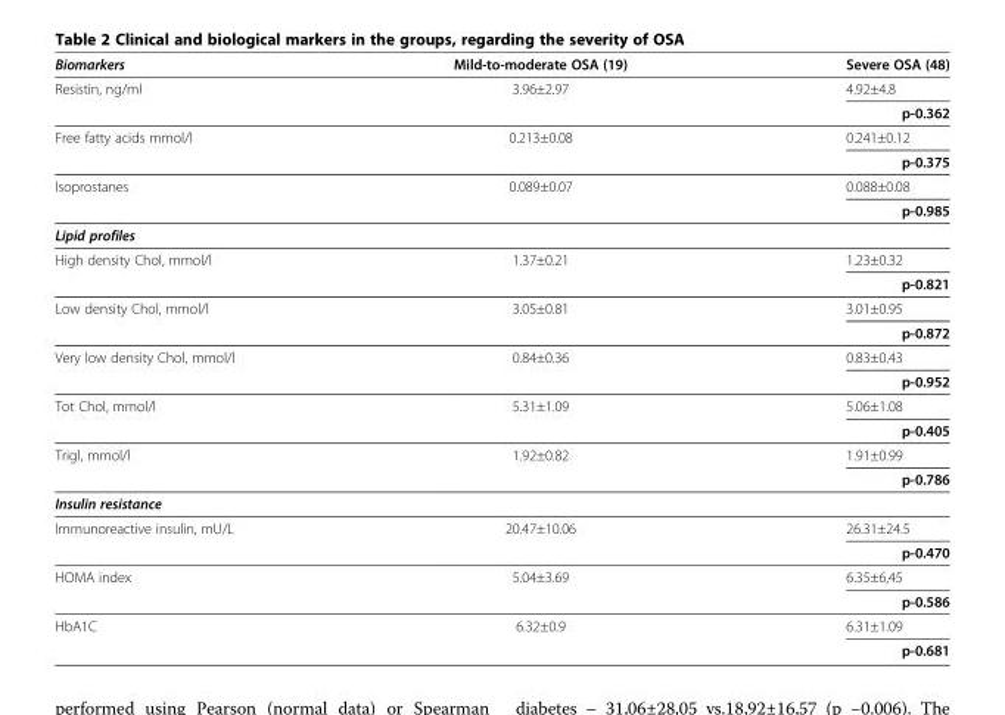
<table><thead><tr><td>Biomarkers</td><td>Mild-to-moderate OSA (19)</td><td>Severe OSA (48)</td></tr></thead><tbody><tr><td rowspan="2">Resistin, ng/ml</td><td rowspan="2">3.96±2.97</td><td>4.92±4.8</td></tr><tr><td>p-0.362</td></tr><tr><td rowspan="2">Free fatty acids mmol/l</td><td rowspan="2">0.213±0.08</td><td>0.241±0.12</td></tr><tr><td>p-0.375</td></tr><tr><td rowspan="2">Isoprostanes</td><td rowspan="2">0.089±0.07</td><td>0.088±0.08</td></tr><tr><td>p-0.985</td></tr><tr><td colspan="3">Lipid profiles</td></tr><tr><td rowspan="2">High density Chol, mmol/l</td><td rowspan="2">1.37±0.21</td><td>1.23±0.32</td></tr><tr><td>p-0.821</td></tr><tr><td rowspan="2">Low density Chol, mmol/l</td><td rowspan="2">3.05±0.81</td><td>3.01±0.95</td></tr><tr><td>p-0.872</td></tr><tr><td rowspan="2">Very low density Chol, mmol/l</td><td rowspan="2">0.84±0.36</td><td>0.83±0.43</td></tr><tr><td>p-0.952</td></tr><tr><td rowspan="2">Tot Chol, mmol/l</td><td rowspan="2">5.31±1.09</td><td>5.06±1.08</td></tr><tr><td>p-0.405</td></tr><tr><td rowspan="2">Trigl, mmol/l</td><td rowspan="2">1.92±0.82</td><td>1.91±0.99</td></tr><tr><td>p-0.786</td></tr><tr><td colspan="3">Insulin resistance</td></tr><tr><td rowspan="2">Immunoreactive insulin, mU/L</td><td rowspan="2">20.47±10.06</td><td>26.31±24.5</td></tr><tr><td>p-0.470</td></tr><tr><td rowspan="2">HOMA index</td><td rowspan="2">5.04±3.69</td><td>6.35±6,45</td></tr><tr><td>p-0.586</td></tr><tr><td rowspan="2">HbA1C</td><td rowspan="2">6.32±0.9</td><td>6.31±1.09</td></tr><tr><td>p-0.681</td></tr></tbody></table>